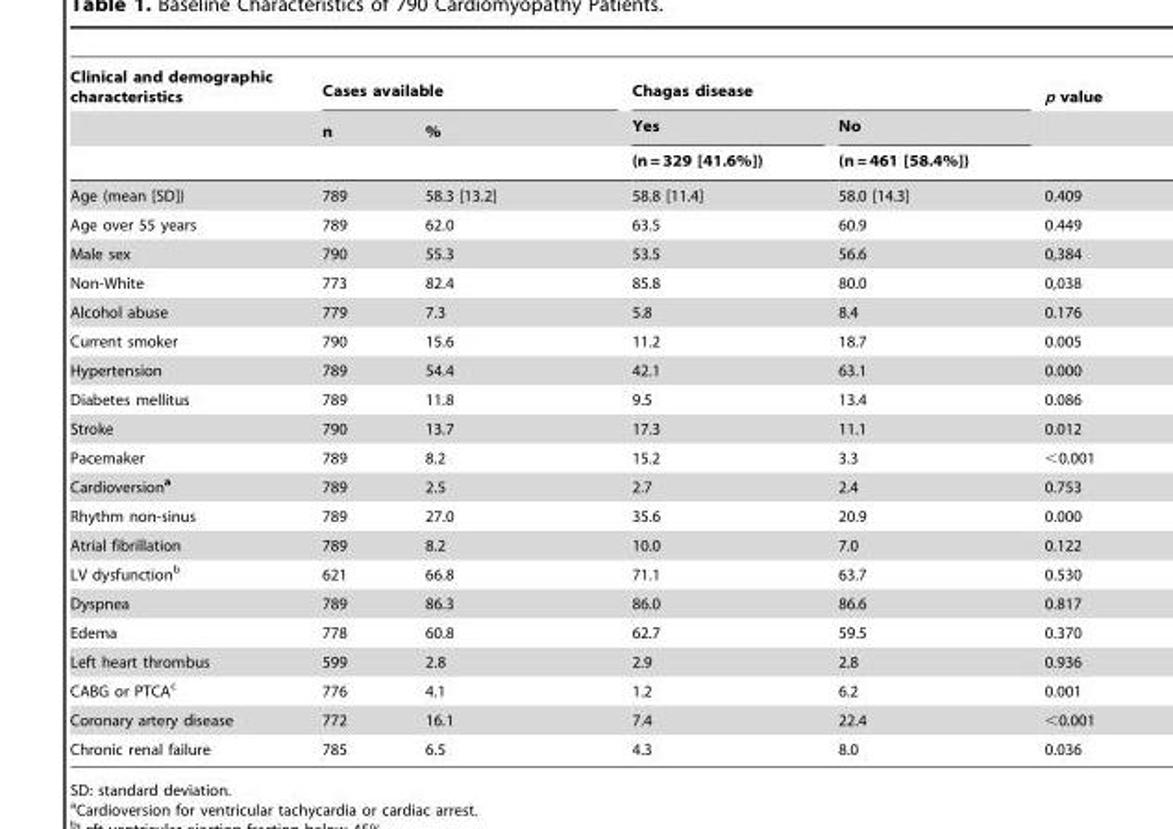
<table><thead><tr><td rowspan="3">Clinical and demographic characteristics</td><td colspan="2">Cases available</td><td colspan="2">Chagas disease</td><td rowspan="3">p value</td></tr><tr><td rowspan="2">n</td><td rowspan="2">%</td><td rowspan="2">Yes (n = 329 [41.6%])</td><td rowspan="2">No (n = 461 [58.4%])</td></tr><tr></tr></thead><tbody><tr><td>Age (mean [SD])</td><td>789</td><td>58.3 [13.2]</td><td>58.8 [11.4]</td><td>58.0 [14.3]</td><td>0.409</td></tr><tr><td>Age over 55 years</td><td>789</td><td>62.0</td><td>63.5</td><td>60.9</td><td>0.449</td></tr><tr><td>Male sex</td><td>790</td><td>55.3</td><td>53.5</td><td>56.6</td><td>0,384</td></tr><tr><td>Non-White</td><td>773</td><td>82.4</td><td>85.8</td><td>80.0</td><td>0,038</td></tr><tr><td>Alcohol abuse</td><td>779</td><td>7.3</td><td>5.8</td><td>8.4</td><td>0.176</td></tr><tr><td>Current smoker</td><td>790</td><td>15.6</td><td>11.2</td><td>18.7</td><td>0.005</td></tr><tr><td>Hypertension</td><td>789</td><td>54.4</td><td>42.1</td><td>63.1</td><td>0.000</td></tr><tr><td>Diabetes mellitus</td><td>789</td><td>11.8</td><td>9.5</td><td>13.4</td><td>0.086</td></tr><tr><td>Stroke</td><td>790</td><td>13.7</td><td>17.3</td><td>11.1</td><td>0.012</td></tr><tr><td>Pacemaker</td><td>789</td><td>8.2</td><td>15.2</td><td>3.3</td><td>&lt;0.001</td></tr><tr><td>Cardioversion<sup>a</sup></td><td>789</td><td>2.5</td><td>2.7</td><td>2.4</td><td>0.753</td></tr><tr><td>Rhythm non-sinus</td><td>789</td><td>27.0</td><td>35.6</td><td>20.9</td><td>0.000</td></tr><tr><td>Atrial fibrillation</td><td>789</td><td>8.2</td><td>10.0</td><td>7.0</td><td>0.122</td></tr><tr><td>LV dysfunction<sup>b</sup></td><td>621</td><td>66.8</td><td>71.1</td><td>63.7</td><td>0.530</td></tr><tr><td>Dyspnea</td><td>789</td><td>86.3</td><td>86.0</td><td>86.6</td><td>0.817</td></tr><tr><td>Edema</td><td>778</td><td>60.8</td><td>62.7</td><td>59.5</td><td>0.370</td></tr><tr><td>Left heart thrombus</td><td>599</td><td>2.8</td><td>2.9</td><td>2.8</td><td>0.936</td></tr><tr><td>CABG or PTCA<sup>c</sup></td><td>776</td><td>4.1</td><td>1.2</td><td>6.2</td><td>0.001</td></tr><tr><td>Coronary artery disease</td><td>772</td><td>16.1</td><td>7.4</td><td>22.4</td><td>&lt;0.001</td></tr><tr><td>Chronic renal failure</td><td>785</td><td>6.5</td><td>4.3</td><td>8.0</td><td>0.036</td></tr></tbody></table>